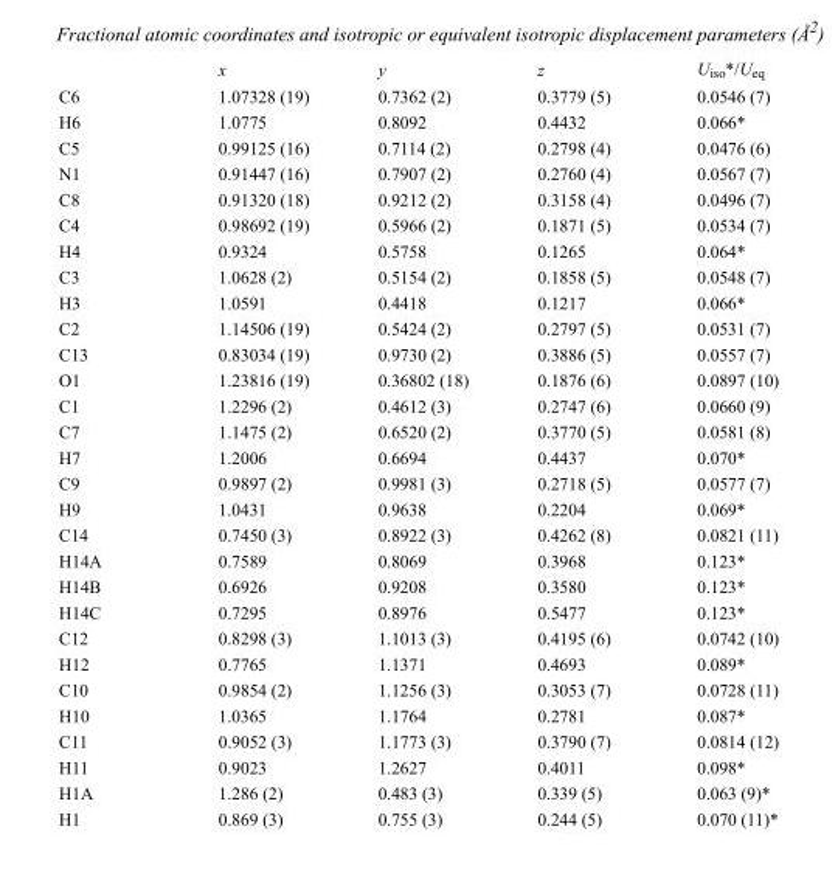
<table><thead><tr><td></td><td>x</td><td>y</td><td>z</td><td>U<sub>iso</sub>*/U<sub>eq</sub></td></tr></thead><tbody><tr><td>C6</td><td>1.07328 (19)</td><td>0.7362 (2)</td><td>0.3779 (5)</td><td>0.0546 (7)</td></tr><tr><td>H6</td><td>1.0775</td><td>0.8092</td><td>0.4432</td><td>0.066*</td></tr><tr><td>C5</td><td>0.99125 (16)</td><td>0.7114 (2)</td><td>0.2798 (4)</td><td>0.0476 (6)</td></tr><tr><td>N1</td><td>0.91447 (16)</td><td>0.7907 (2)</td><td>0.2760 (4)</td><td>0.0567 (7)</td></tr><tr><td>C8</td><td>0.91320 (18)</td><td>0.9212 (2)</td><td>0.3158 (4)</td><td>0.0496 (7)</td></tr><tr><td>C4</td><td>0.98692 (19)</td><td>0.5966 (2)</td><td>0.1871 (5)</td><td>0.0534 (7)</td></tr><tr><td>H4</td><td>0.9324</td><td>0.5758</td><td>0.1265</td><td>0.064*</td></tr><tr><td>C3</td><td>1.0628 (2)</td><td>0.5154 (2)</td><td>0.1858 (5)</td><td>0.0548 (7)</td></tr><tr><td>H3</td><td>1.0591</td><td>0.4418</td><td>0.1217</td><td>0.066*</td></tr><tr><td>C2</td><td>1.14506 (19)</td><td>0.5424 (2)</td><td>0.2797 (5)</td><td>0.0531 (7)</td></tr><tr><td>C13</td><td>0.83034 (19)</td><td>0.9730 (2)</td><td>0.3886 (5)</td><td>0.0557 (7)</td></tr><tr><td>O1</td><td>1.23816 (19)</td><td>0.36802 (18)</td><td>0.1876 (6)</td><td>0.0897 (10)</td></tr><tr><td>C1</td><td>1.2296 (2)</td><td>0.4612 (3)</td><td>0.2747 (6)</td><td>0.0660 (9)</td></tr><tr><td>C7</td><td>1.1475 (2)</td><td>0.6520 (2)</td><td>0.3770 (5)</td><td>0.0581 (8)</td></tr><tr><td>H7</td><td>1.2006</td><td>0.6694</td><td>0.4437</td><td>0.070*</td></tr><tr><td>C9</td><td>0.9897 (2)</td><td>0.9981 (3)</td><td>0.2718 (5)</td><td>0.0577 (7)</td></tr><tr><td>H9</td><td>1.0431</td><td>0.9638</td><td>0.2204</td><td>0.069*</td></tr><tr><td>C14</td><td>0.7450 (3)</td><td>0.8922 (3)</td><td>0.4262 (8)</td><td>0.0821 (11)</td></tr><tr><td>H14A</td><td>0.7589</td><td>0.8069</td><td>0.3968</td><td>0.123*</td></tr><tr><td>H14B</td><td>0.6926</td><td>0.9208</td><td>0.3580</td><td>0.123*</td></tr><tr><td>H14C</td><td>0.7295</td><td>0.8976</td><td>0.5477</td><td>0.123*</td></tr><tr><td>C12</td><td>0.8298 (3)</td><td>1.1013 (3)</td><td>0.4195 (6)</td><td>0.0742 (10)</td></tr><tr><td>H12</td><td>0.7765</td><td>1.1371</td><td>0.4693</td><td>0.089*</td></tr><tr><td>C10</td><td>0.9854 (2)</td><td>1.1256 (3)</td><td>0.3053 (7)</td><td>0.0728 (11)</td></tr><tr><td>H10</td><td>1.0365</td><td>1.1764</td><td>0.2781</td><td>0.087*</td></tr><tr><td>C11</td><td>0.9052 (3)</td><td>1.1773 (3)</td><td>0.3790 (7)</td><td>0.0814 (12)</td></tr><tr><td>H11</td><td>0.9023</td><td>1.2627</td><td>0.4011</td><td>0.098*</td></tr><tr><td>H1A</td><td>1.286 (2)</td><td>0.483 (3)</td><td>0.339 (5)</td><td>0.063 (9)*</td></tr><tr><td>H1</td><td>0.869 (3)</td><td>0.755 (3)</td><td>0.244 (5)</td><td>0.070 (11)*</td></tr></tbody></table>